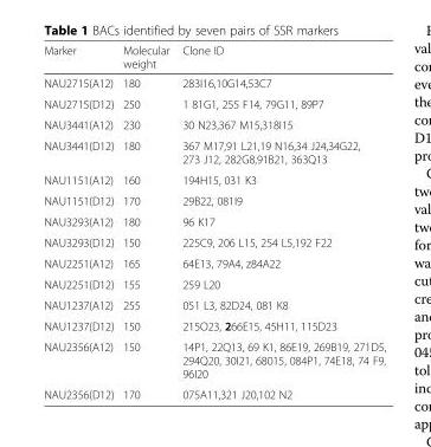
<table><thead><tr><td>Marker</td><td>Molecular weight</td><td>Clone ID</td></tr></thead><tbody><tr><td>NAU2715(A12)</td><td>180</td><td>283I16,10G14,53C7</td></tr><tr><td>NAU2715(D12)</td><td>250</td><td>1 81G1, 255 F14, 79G11, 89P7</td></tr><tr><td>NAU3441(A12)</td><td>230</td><td>30 N23,367 M15,318I15</td></tr><tr><td>NAU3441(D12)</td><td>180</td><td>367 M17,91 L21,19 N16,34 J24,34G22, 273 J12, 282G8,91B21, 363Q13</td></tr><tr><td>NAU1151(A12)</td><td>160</td><td>194H15, 031 K3</td></tr><tr><td>NAU1151(D12)</td><td>170</td><td>29B22, 081I9</td></tr><tr><td>NAU3293(A12)</td><td>180</td><td>96 K17</td></tr><tr><td>NAU3293(D12)</td><td>150</td><td>225C9, 206 L15, 254 L5,192 F22</td></tr><tr><td>NAU2251(A12)</td><td>165</td><td>64E13, 79A4, z84A22</td></tr><tr><td>NAU2251(D12)</td><td>155</td><td>259 L20</td></tr><tr><td>NAU1237(A12)</td><td>255</td><td>051 L3, 82D24, 081 K8</td></tr><tr><td>NAU1237(D12)</td><td>150</td><td>215O23, 266E15, 45H11, 115D23</td></tr><tr><td>NAU2356(A12)</td><td>150</td><td>14P1, 22Q13, 69 K1, 86E19, 269B19, 271D5, 294Q20, 30I21, 68015, 084P1, 74E18, 74 F9, 96I20</td></tr><tr><td>NAU2356(D12)</td><td>170</td><td>075A11,321 J20,102 N2</td></tr></tbody></table>